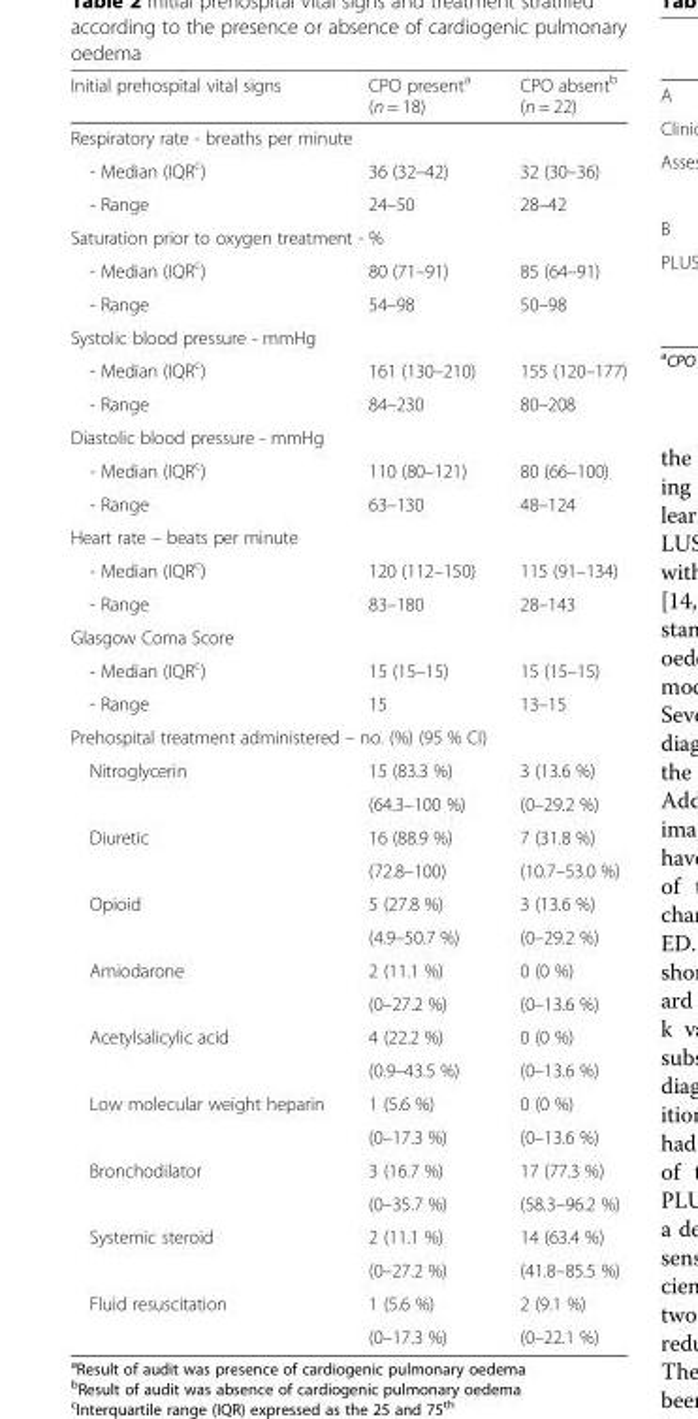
<table><thead><tr><td>Initial prehospital vital signs</td><td>CPO present<sup>a</sup> (n = 18)</td><td>CPO absent<sup>b</sup> (n = 22)</td></tr></thead><tbody><tr><td colspan="3">Respiratory rate - breaths per minute</td></tr><tr><td>- Median (IQR<sup>c</sup>)</td><td>36 (32–42)</td><td>32 (30–36)</td></tr><tr><td>- Range</td><td>24–50</td><td>28–42</td></tr><tr><td colspan="3">Saturation prior to oxygen treatment - %</td></tr><tr><td>- Median (IQR<sup>c</sup>)</td><td>80 (71–91)</td><td>85 (64–91)</td></tr><tr><td>- Range</td><td>54–98</td><td>50–98</td></tr><tr><td colspan="3">Systolic blood pressure - mmHg</td></tr><tr><td>- Median (IQR<sup>c</sup>)</td><td>161 (130–210)</td><td>155 (120–177)</td></tr><tr><td>- Range</td><td>84–230</td><td>80–208</td></tr><tr><td colspan="3">Diastolic blood pressure - mmHg</td></tr><tr><td>- Median (IQR<sup>c</sup>)</td><td>110 (80–121)</td><td>80 (66–100)</td></tr><tr><td>- Range</td><td>63–130</td><td>48–124</td></tr><tr><td colspan="3">Heart rate – beats per minute</td></tr><tr><td>- Median (IQR<sup>c</sup>)</td><td>120 (112–150)</td><td>115 (91–134)</td></tr><tr><td>- Range</td><td>83–180</td><td>28–143</td></tr><tr><td colspan="3">Glasgow Coma Score</td></tr><tr><td>- Median (IQR<sup>c</sup>)</td><td>15 (15–15)</td><td>15 (15–15)</td></tr><tr><td>- Range</td><td>15</td><td>13–15</td></tr><tr><td colspan="3">Prehospital treatment administered – no. (%) (95 % CI)</td></tr><tr><td rowspan="2">Nitroglycerin</td><td>15 (83.3 %)</td><td>3 (13.6 %)</td></tr><tr><td>(64.3–100 %)</td><td>(0–29.2 %)</td></tr><tr><td rowspan="2">Diuretic</td><td>16 (88.9 %)</td><td>7 (31.8 %)</td></tr><tr><td>(72.8–100)</td><td>(10.7–53.0 %)</td></tr><tr><td rowspan="2">Opioid</td><td>5 (27.8 %)</td><td>3 (13.6 %)</td></tr><tr><td>(4.9–50.7 %)</td><td>(0–29.2 %)</td></tr><tr><td rowspan="2">Amiodarone</td><td>2 (11.1 %)</td><td>0 (0 %)</td></tr><tr><td>(0–27.2 %)</td><td>(0–13.6 %)</td></tr><tr><td rowspan="2">Acetylsalicylic acid</td><td>4 (22.2 %)</td><td>0 (0 %)</td></tr><tr><td>(0.9–43.5 %)</td><td>(0–13.6 %)</td></tr><tr><td rowspan="2">Low molecular weight heparin</td><td>1 (5.6 %)</td><td>0 (0 %)</td></tr><tr><td>(0–17.3 %)</td><td>(0–13.6 %)</td></tr><tr><td rowspan="2">Bronchodilator</td><td>3 (16.7 %)</td><td>17 (77.3 %)</td></tr><tr><td>(0–35.7 %)</td><td>(58.3–96.2 %)</td></tr><tr><td rowspan="2">Systemic steroid</td><td>2 (11.1 %)</td><td>14 (63.4 %)</td></tr><tr><td>(0–27.2 %)</td><td>(41.8–85.5 %)</td></tr><tr><td rowspan="2">Fluid resuscitation</td><td>1 (5.6 %)</td><td>2 (9.1 %)</td></tr><tr><td>(0–17.3 %)</td><td>(0–22.1 %)</td></tr></tbody></table>